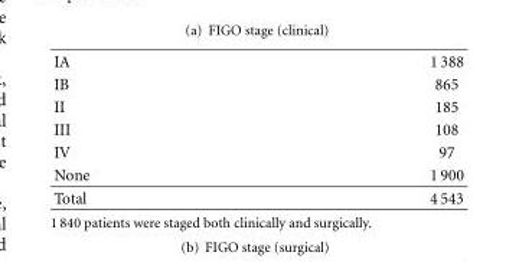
<table><tbody><tr><td>IA</td><td>1 388</td></tr><tr><td>IB</td><td>865</td></tr><tr><td>II</td><td>185</td></tr><tr><td>III</td><td>108</td></tr><tr><td>IV</td><td>97</td></tr><tr><td>None</td><td>1 900</td></tr><tr><td>Total</td><td>4 543</td></tr></tbody></table>